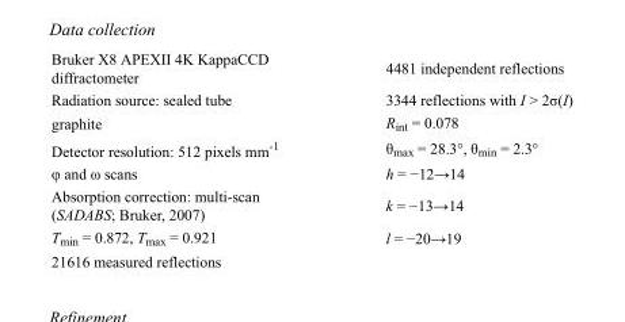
<table><tbody><tr><td>Bruker X8 APEXII 4K KappaCCD diffractometer</td><td>4481 independent reflections</td></tr><tr><td>Radiation source: sealed tube</td><td>3344 reflections with I &gt; 2σ(I)</td></tr><tr><td>graphite</td><td>R<sub>int</sub> = 0.078</td></tr><tr><td>Detector resolution: 512 pixels mm<sup>-1</sup></td><td>θ<sub>max</sub> = 28.3°, θ<sub>min</sub> = 2.3°</td></tr><tr><td>φ and ω scans</td><td>h = −12→14</td></tr><tr><td>Absorption correction: multi-scan (SADABS; Bruker, 2007)</td><td>k = −13→14</td></tr><tr><td>T<sub>min</sub> = 0.872, T<sub>max</sub> = 0.921</td><td>l = −20→19</td></tr><tr><td>21616 measured reflections</td><td></td></tr></tbody></table>